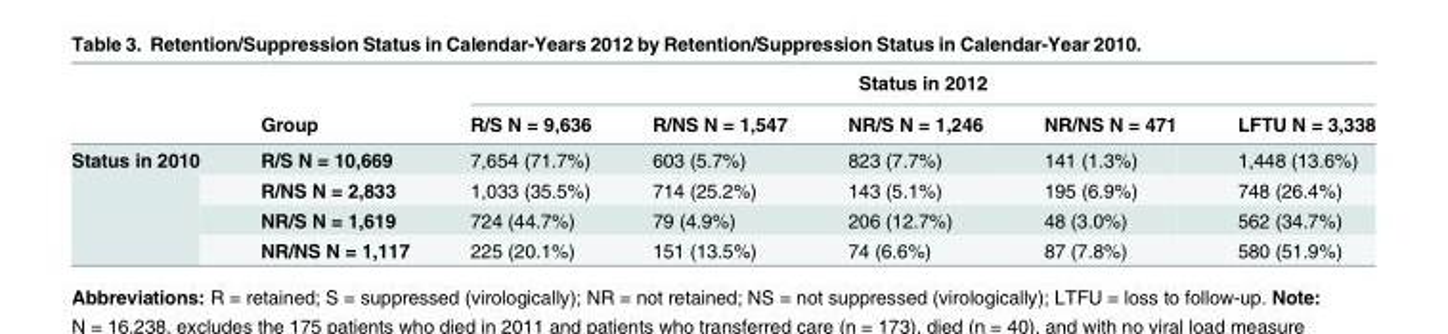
<table><thead><tr><td rowspan="2"></td><td rowspan="2">Group</td><td colspan="5">Status in 2012</td></tr><tr><td>R/S N = 9,636</td><td>R/NS N = 1,547</td><td>NR/S N = 1,246</td><td>NR/NS N = 471</td><td>LFTU N = 3,338</td></tr></thead><tbody><tr><td rowspan="4">Status in 2010</td><td>R/S N = 10,669</td><td>7,654 (71.7%)</td><td>603 (5.7%)</td><td>823 (7.7%)</td><td>141 (1.3%)</td><td>1,448 (13.6%)</td></tr><tr><td>R/NS N = 2,833</td><td>1,033 (35.5%)</td><td>714 (25.2%)</td><td>143 (5.1%)</td><td>195 (6.9%)</td><td>748 (26.4%)</td></tr><tr><td>NR/S N = 1,619</td><td>724 (44.7%)</td><td>79 (4.9%)</td><td>206 (12.7%)</td><td>48 (3.0%)</td><td>562 (34.7%)</td></tr><tr><td>NR/NS N = 1,117</td><td>225 (20.1%)</td><td>151 (13.5%)</td><td>74 (6.6%)</td><td>87 (7.8%)</td><td>580 (51.9%)</td></tr></tbody></table>